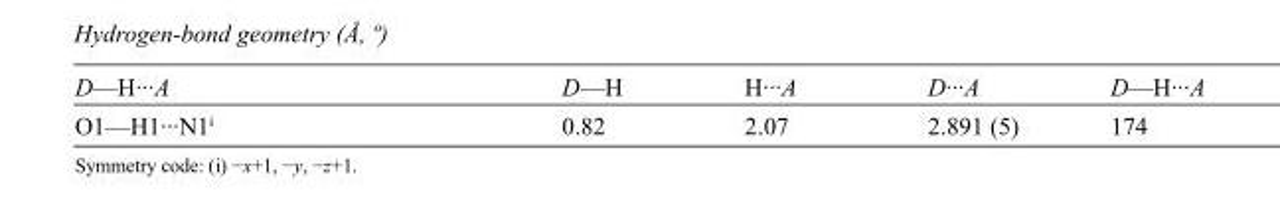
<table><tbody><tr><td>D—H···A</td><td>D—H</td><td>H···A</td><td>D···A</td><td>D—H···A</td></tr><tr><td>O1—H1···N1<sup>i</sup></td><td>0.82</td><td>2.07</td><td>2.891 (5)</td><td>174</td></tr></tbody></table>